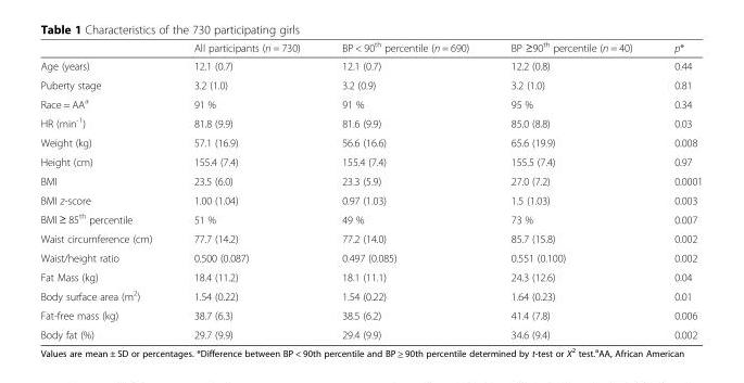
<table><thead><tr><td></td><td>All participants (n = 730)</td><td>BP &lt; 90<sup>th</sup> percentile (n = 690)</td><td>BP ≥90<sup>th</sup> percentile (n = 40)</td><td>p*</td></tr></thead><tbody><tr><td>Age (years)</td><td>12.1 (0.7)</td><td>12.1 (0.7)</td><td>12.2 (0.8)</td><td>0.44</td></tr><tr><td>Puberty stage</td><td>3.2 (1.0)</td><td>3.2 (0.9)</td><td>3.2 (1.0)</td><td>0.81</td></tr><tr><td>Race = AA<sup>a</sup></td><td>91 %</td><td>91 %</td><td>95 %</td><td>0.34</td></tr><tr><td>HR (min<sup>-1</sup>)</td><td>81.8 (9.9)</td><td>81.6 (9.9)</td><td>85.0 (8.8)</td><td>0.03</td></tr><tr><td>Weight (kg)</td><td>57.1 (16.9)</td><td>56.6 (16.6)</td><td>65.6 (19.9)</td><td>0.008</td></tr><tr><td>Height (cm)</td><td>155.4 (7.4)</td><td>155.4 (7.4)</td><td>155.5 (7.4)</td><td>0.97</td></tr><tr><td>BMI</td><td>23.5 (6.0)</td><td>23.3 (5.9)</td><td>27.0 (7.2)</td><td>0.0001</td></tr><tr><td>BMI z-score</td><td>1.00 (1.04)</td><td>0.97 (1.03)</td><td>1.5 (1.03)</td><td>0.003</td></tr><tr><td>BMI ≥ 85<sup>th</sup> percentile</td><td>51 %</td><td>49 %</td><td>73 %</td><td>0.007</td></tr><tr><td>Waist circumference (cm)</td><td>77.7 (14.2)</td><td>77.2 (14.0)</td><td>85.7 (15.8)</td><td>0.002</td></tr><tr><td>Waist/height ratio</td><td>0.500 (0.087)</td><td>0.497 (0.085)</td><td>0.551 (0.100)</td><td>0.002</td></tr><tr><td>Fat Mass (kg)</td><td>18.4 (11.2)</td><td>18.1 (11.1)</td><td>24.3 (12.6)</td><td>0.04</td></tr><tr><td>Body surface area (m<sup>2</sup>)</td><td>1.54 (0.22)</td><td>1.54 (0.22)</td><td>1.64 (0.23)</td><td>0.01</td></tr><tr><td>Fat-free mass (kg)</td><td>38.7 (6.3)</td><td>38.5 (6.2)</td><td>41.4 (7.8)</td><td>0.006</td></tr><tr><td>Body fat (%)</td><td>29.7 (9.9)</td><td>29.4 (9.9)</td><td>34.6 (9.4)</td><td>0.002</td></tr></tbody></table>